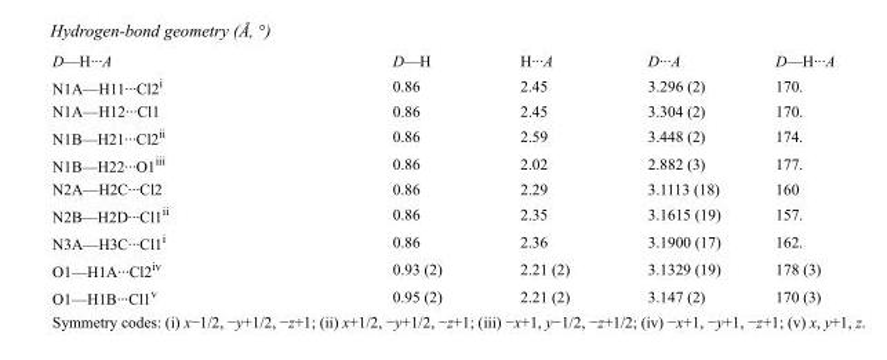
<table><tbody><tr><td>D—H···A</td><td>D—H</td><td>H···A</td><td>D···A</td><td>D—H···A</td></tr><tr><td>N1A—H11···Cl2<sup>i</sup></td><td>0.86</td><td>2.45</td><td>3.296 (2)</td><td>170.</td></tr><tr><td>N1A—H12···Cl1</td><td>0.86</td><td>2.45</td><td>3.304 (2)</td><td>170.</td></tr><tr><td>N1B—H21···Cl2<sup>ii</sup></td><td>0.86</td><td>2.59</td><td>3.448 (2)</td><td>174.</td></tr><tr><td>N1B—H22···O1<sup>iii</sup></td><td>0.86</td><td>2.02</td><td>2.882 (3)</td><td>177.</td></tr><tr><td>N2A—H2C···Cl2</td><td>0.86</td><td>2.29</td><td>3.1113 (18)</td><td>160</td></tr><tr><td>N2B—H2D···Cl1<sup>ii</sup></td><td>0.86</td><td>2.35</td><td>3.1615 (19)</td><td>157.</td></tr><tr><td>N3A—H3C···Cl1<sup>i</sup></td><td>0.86</td><td>2.36</td><td>3.1900 (17)</td><td>162.</td></tr><tr><td>O1—H1A···Cl2<sup>iv</sup></td><td>0.93 (2)</td><td>2.21 (2)</td><td>3.1329 (19)</td><td>178 (3)</td></tr><tr><td>O1—H1B···Cl1<sup>v</sup></td><td>0.95 (2)</td><td>2.21 (2)</td><td>3.147 (2)</td><td>170 (3)</td></tr></tbody></table>